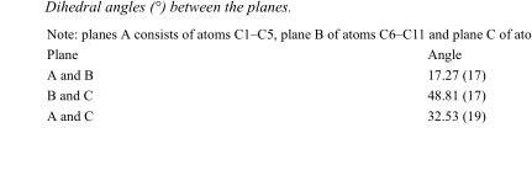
<table><tbody><tr><td>Plane</td><td>Angle</td></tr><tr><td>A and B</td><td>17.27 (17)</td></tr><tr><td>B and C</td><td>48.81 (17)</td></tr><tr><td>A and C</td><td>32.53 (19)</td></tr></tbody></table>